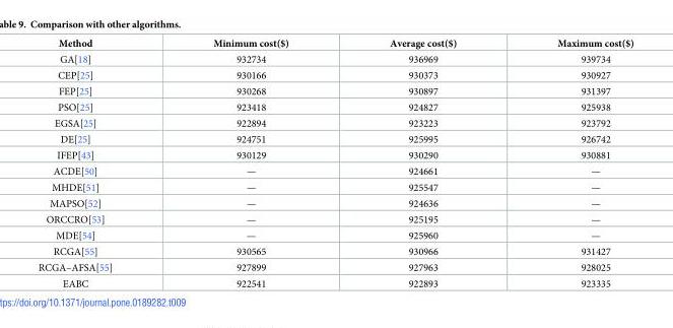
<table><thead><tr><td>Method</td><td>Minimum cost($)</td><td>Average cost($)</td><td>Maximum cost($)</td></tr></thead><tbody><tr><td>GA[18]</td><td>932734</td><td>936969</td><td>939734</td></tr><tr><td>CEP[25]</td><td>930166</td><td>930373</td><td>930927</td></tr><tr><td>FEP[25]</td><td>930268</td><td>930897</td><td>931397</td></tr><tr><td>PSO[25]</td><td>923418</td><td>924827</td><td>925938</td></tr><tr><td>EGSA[25]</td><td>922894</td><td>923223</td><td>923792</td></tr><tr><td>DE[25]</td><td>924751</td><td>925995</td><td>926742</td></tr><tr><td>IFEP[43]</td><td>930129</td><td>930290</td><td>930881</td></tr><tr><td>ACDE[50]</td><td>—</td><td>924661</td><td>—</td></tr><tr><td>MHDE[51]</td><td>—</td><td>925547</td><td>—</td></tr><tr><td>MAPSO[52]</td><td>—</td><td>924636</td><td>—</td></tr><tr><td>ORCCRO[53]</td><td>—</td><td>925195</td><td>—</td></tr><tr><td>MDE[54]</td><td>—</td><td>925960</td><td>—</td></tr><tr><td>RCGA[55]</td><td>930565</td><td>930966</td><td>931427</td></tr><tr><td>RCGA–AFSA[55]</td><td>927899</td><td>927963</td><td>928025</td></tr><tr><td>EABC</td><td>922541</td><td>922893</td><td>923335</td></tr></tbody></table>